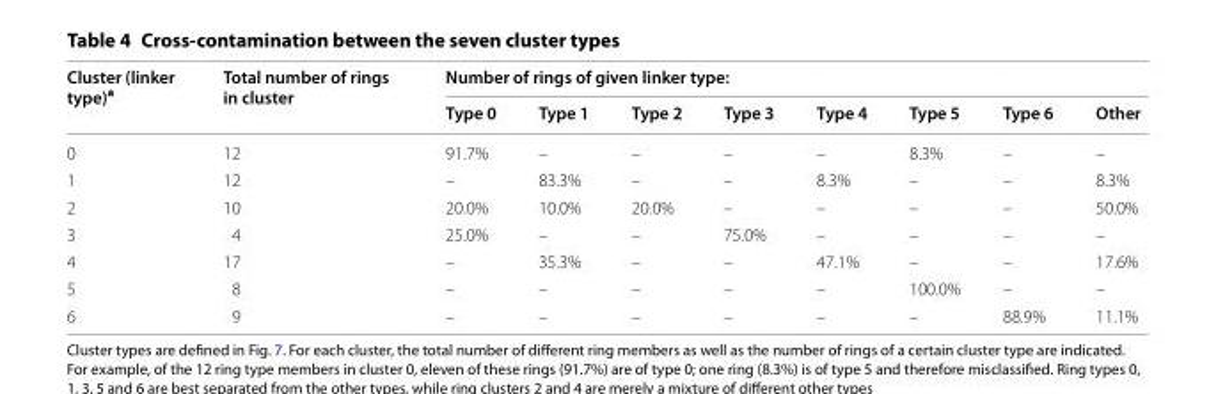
<table><thead><tr><td rowspan="2">Cluster (linker type)<sup>a</sup></td><td rowspan="2">Total number of rings in cluster</td><td colspan="8">Number of rings of given linker type:</td></tr><tr><td>Type 0</td><td>Type 1</td><td>Type 2</td><td>Type 3</td><td>Type 4</td><td>Type 5</td><td>Type 6</td><td>Other</td></tr></thead><tbody><tr><td>0</td><td>12</td><td>91.7%</td><td>–</td><td>–</td><td>–</td><td>–</td><td>8.3%</td><td>–</td><td>–</td></tr><tr><td>1</td><td>12</td><td>–</td><td>83.3%</td><td>–</td><td>–</td><td>8.3%</td><td>–</td><td>–</td><td>8.3%</td></tr><tr><td>2</td><td>10</td><td>20.0%</td><td>10.0%</td><td>20.0%</td><td>–</td><td>–</td><td>–</td><td>–</td><td>50.0%</td></tr><tr><td>3</td><td>4</td><td>25.0%</td><td>–</td><td>–</td><td>75.0%</td><td>–</td><td>–</td><td>–</td><td>–</td></tr><tr><td>4</td><td>17</td><td>–</td><td>35.3%</td><td>–</td><td>–</td><td>47.1%</td><td>–</td><td>–</td><td>17.6%</td></tr><tr><td>5</td><td>8</td><td>–</td><td>–</td><td>–</td><td>–</td><td>–</td><td>100.0%</td><td>–</td><td>–</td></tr><tr><td>6</td><td>9</td><td>–</td><td>–</td><td>–</td><td>–</td><td>–</td><td>–</td><td>88.9%</td><td>11.1%</td></tr></tbody></table>